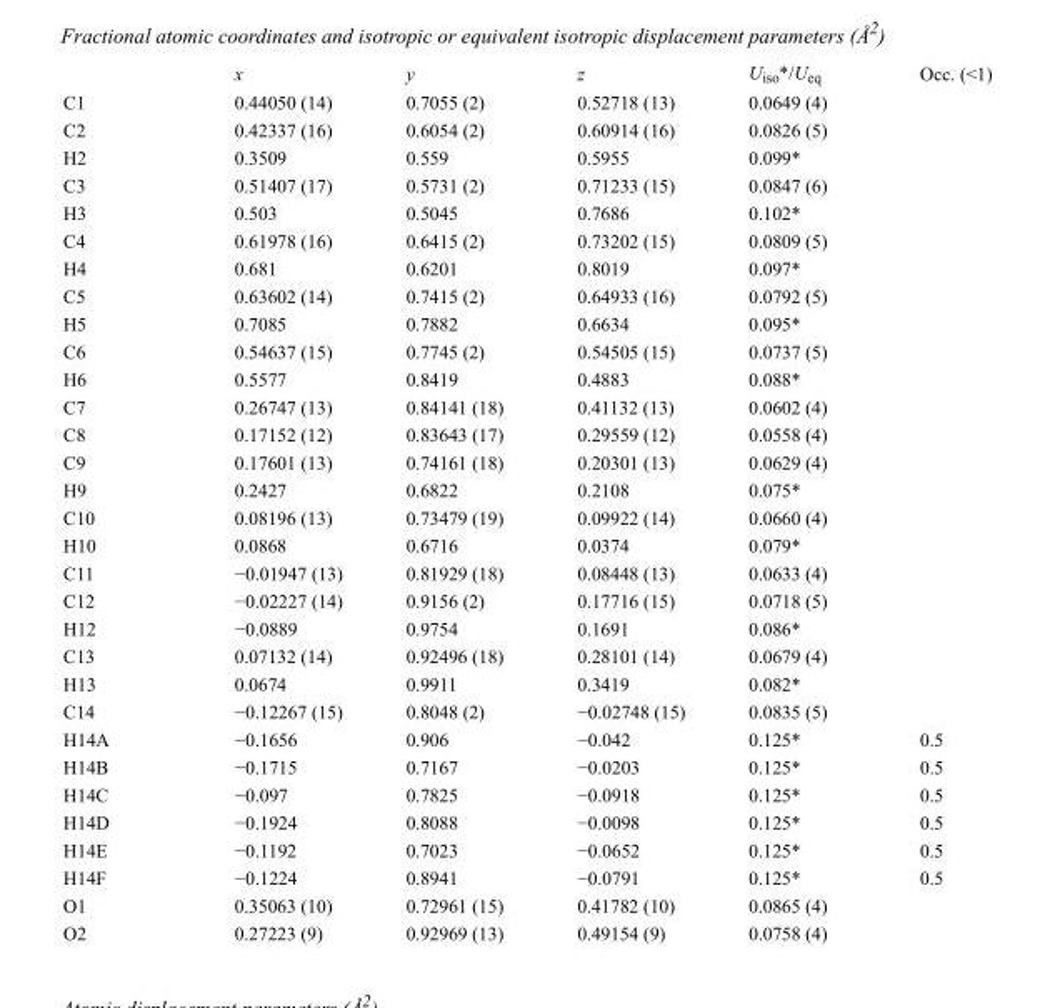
<table><thead><tr><td></td><td>x</td><td>y</td><td>z</td><td>U<sub>iso</sub>*/U<sub>eq</sub></td><td>Occ. (&lt;1)</td></tr></thead><tbody><tr><td>C1</td><td>0.44050 (14)</td><td>0.7055 (2)</td><td>0.52718 (13)</td><td>0.0649 (4)</td><td></td></tr><tr><td>C2</td><td>0.42337 (16)</td><td>0.6054 (2)</td><td>0.60914 (16)</td><td>0.0826 (5)</td><td></td></tr><tr><td>H2</td><td>0.3509</td><td>0.559</td><td>0.5955</td><td>0.099*</td><td></td></tr><tr><td>C3</td><td>0.51407 (17)</td><td>0.5731 (2)</td><td>0.71233 (15)</td><td>0.0847 (6)</td><td></td></tr><tr><td>H3</td><td>0.503</td><td>0.5045</td><td>0.7686</td><td>0.102*</td><td></td></tr><tr><td>C4</td><td>0.61978 (16)</td><td>0.6415 (2)</td><td>0.73202 (15)</td><td>0.0809 (5)</td><td></td></tr><tr><td>H4</td><td>0.681</td><td>0.6201</td><td>0.8019</td><td>0.097*</td><td></td></tr><tr><td>C5</td><td>0.63602 (14)</td><td>0.7415 (2)</td><td>0.64933 (16)</td><td>0.0792 (5)</td><td></td></tr><tr><td>H5</td><td>0.7085</td><td>0.7882</td><td>0.6634</td><td>0.095*</td><td></td></tr><tr><td>C6</td><td>0.54637 (15)</td><td>0.7745 (2)</td><td>0.54505 (15)</td><td>0.0737 (5)</td><td></td></tr><tr><td>H6</td><td>0.5577</td><td>0.8419</td><td>0.4883</td><td>0.088*</td><td></td></tr><tr><td>C7</td><td>0.26747 (13)</td><td>0.84141 (18)</td><td>0.41132 (13)</td><td>0.0602 (4)</td><td></td></tr><tr><td>C8</td><td>0.17152 (12)</td><td>0.83643 (17)</td><td>0.29559 (12)</td><td>0.0558 (4)</td><td></td></tr><tr><td>C9</td><td>0.17601 (13)</td><td>0.74161 (18)</td><td>0.20301 (13)</td><td>0.0629 (4)</td><td></td></tr><tr><td>H9</td><td>0.2427</td><td>0.6822</td><td>0.2108</td><td>0.075*</td><td></td></tr><tr><td>C10</td><td>0.08196 (13)</td><td>0.73479 (19)</td><td>0.09922 (14)</td><td>0.0660 (4)</td><td></td></tr><tr><td>H10</td><td>0.0868</td><td>0.6716</td><td>0.0374</td><td>0.079*</td><td></td></tr><tr><td>C11</td><td>−0.01947 (13)</td><td>0.81929 (18)</td><td>0.08448 (13)</td><td>0.0633 (4)</td><td></td></tr><tr><td>C12</td><td>−0.02227 (14)</td><td>0.9156 (2)</td><td>0.17716 (15)</td><td>0.0718 (5)</td><td></td></tr><tr><td>H12</td><td>−0.0889</td><td>0.9754</td><td>0.1691</td><td>0.086*</td><td></td></tr><tr><td>C13</td><td>0.07132 (14)</td><td>0.92496 (18)</td><td>0.28101 (14)</td><td>0.0679 (4)</td><td></td></tr><tr><td>H13</td><td>0.0674</td><td>0.9911</td><td>0.3419</td><td>0.082*</td><td></td></tr><tr><td>C14</td><td>−0.12267 (15)</td><td>0.8048 (2)</td><td>−0.02748 (15)</td><td>0.0835 (5)</td><td></td></tr><tr><td>H14A</td><td>−0.1656</td><td>0.906</td><td>−0.042</td><td>0.125*</td><td>0.5</td></tr><tr><td>H14B</td><td>−0.1715</td><td>0.7167</td><td>−0.0203</td><td>0.125*</td><td>0.5</td></tr><tr><td>H14C</td><td>−0.097</td><td>0.7825</td><td>−0.0918</td><td>0.125*</td><td>0.5</td></tr><tr><td>H14D</td><td>−0.1924</td><td>0.8088</td><td>−0.0098</td><td>0.125*</td><td>0.5</td></tr><tr><td>H14E</td><td>−0.1192</td><td>0.7023</td><td>−0.0652</td><td>0.125*</td><td>0.5</td></tr><tr><td>H14F</td><td>−0.1224</td><td>0.8941</td><td>−0.0791</td><td>0.125*</td><td>0.5</td></tr><tr><td>O1</td><td>0.35063 (10)</td><td>0.72961 (15)</td><td>0.41782 (10)</td><td>0.0865 (4)</td><td></td></tr><tr><td>O2</td><td>0.27223 (9)</td><td>0.92969 (13)</td><td>0.49154 (9)</td><td>0.0758 (4)</td><td></td></tr></tbody></table>